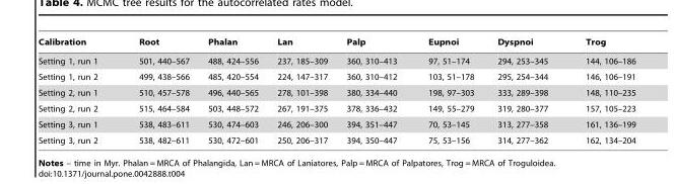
<table><thead><tr><td>Calibration</td><td>Root</td><td>Phalan</td><td>Lan</td><td>Palp</td><td>Eupnoi</td><td>Dyspnoi</td><td>Trog</td></tr></thead><tbody><tr><td>Setting 1, run 1</td><td>501, 440–567</td><td>488, 424–556</td><td>237, 185–309</td><td>360, 310–413</td><td>97, 51–174</td><td>294, 253–345</td><td>144, 106–186</td></tr><tr><td>Setting 1, run 2</td><td>499, 438–566</td><td>485, 420–554</td><td>224, 147–317</td><td>360, 310–412</td><td>103, 51–178</td><td>295, 254–344</td><td>146, 106–191</td></tr><tr><td>Setting 2, run 1</td><td>510, 457–578</td><td>496, 440–565</td><td>278, 101–398</td><td>380, 334–440</td><td>198, 97–303</td><td>333, 289–398</td><td>148, 110–235</td></tr><tr><td>Setting 2, run 2</td><td>515, 464–584</td><td>503, 448–572</td><td>267, 191–375</td><td>378, 336–432</td><td>149, 55–279</td><td>319, 280–377</td><td>157, 105–223</td></tr><tr><td>Setting 3, run 1</td><td>538, 483–611</td><td>530, 474–603</td><td>246, 206–300</td><td>394, 351–447</td><td>70, 53–145</td><td>313, 277–358</td><td>161, 136–199</td></tr><tr><td>Setting 3, run 2</td><td>538, 482–611</td><td>530, 472–601</td><td>250, 206–317</td><td>394, 350–447</td><td>75, 53–156</td><td>314, 277–362</td><td>162, 134–204</td></tr></tbody></table>